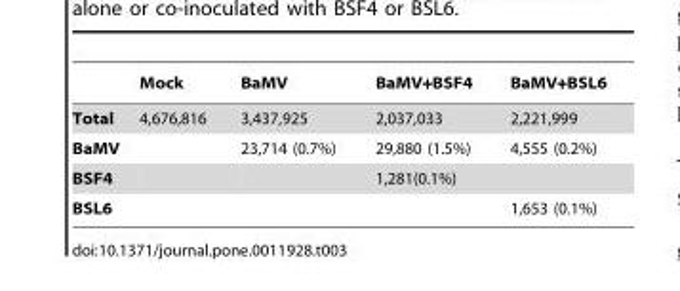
<table><thead><tr><td></td><td>Mock</td><td>BaMV</td><td>BaMV+BSF4</td><td>BaMV+BSL6</td></tr></thead><tbody><tr><td>Total</td><td>4,676,816</td><td>3,437,925</td><td>2,037,033</td><td>2,221,999</td></tr><tr><td>BaMV</td><td></td><td>23,714 (0.7%)</td><td>29,880 (1.5%)</td><td>4,555 (0.2%)</td></tr><tr><td>BSF4</td><td></td><td></td><td>1,281(0.1%)</td><td></td></tr><tr><td>BSL6</td><td></td><td></td><td></td><td>1,653 (0.1%)</td></tr></tbody></table>